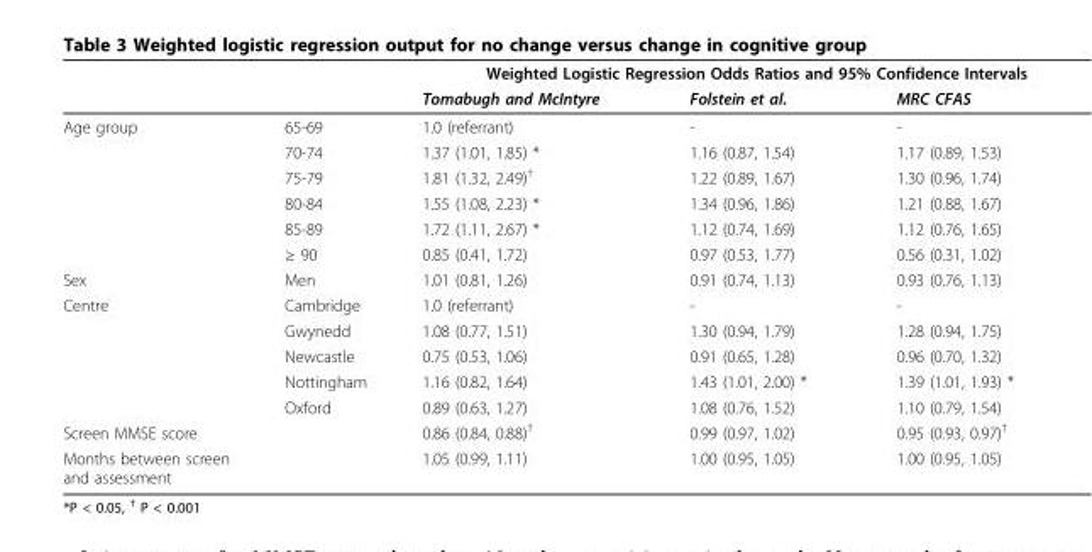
<table><thead><tr><td rowspan="2"></td><td rowspan="2"></td><td colspan="3">Weighted Logistic Regression Odds Ratios and 95% Confidence Intervals</td></tr><tr><td>Tomabugh and McIntyre</td><td>Folstein et al.</td><td>MRC CFAS</td></tr></thead><tbody><tr><td rowspan="6">Age group</td><td>65-69</td><td>1.0 (referrant)</td><td>-</td><td>-</td></tr><tr><td>70-74</td><td>1.37 (1.01, 1.85) *</td><td>1.16 (0.87, 1.54)</td><td>1.17 (0.89, 1.53)</td></tr><tr><td>75-79</td><td>1.81 (1.32, 2.49)<sup>†</sup></td><td>1.22 (0.89, 1.67)</td><td>1.30 (0.96, 1.74)</td></tr><tr><td>80-84</td><td>1.55 (1.08, 2.23) *</td><td>1.34 (0.96, 1.86)</td><td>1.21 (0.88, 1.67)</td></tr><tr><td>85-89</td><td>1.72 (1.11, 2.67) *</td><td>1.12 (0.74, 1.69)</td><td>1.12 (0.76, 1.65)</td></tr><tr><td>≥ 90</td><td>0.85 (0.41, 1.72)</td><td>0.97 (0.53, 1.77)</td><td>0.56 (0.31, 1.02)</td></tr><tr><td>Sex</td><td>Men</td><td>1.01 (0.81, 1.26)</td><td>0.91 (0.74, 1.13)</td><td>0.93 (0.76, 1.13)</td></tr><tr><td rowspan="5">Centre</td><td>Cambridge</td><td>1.0 (referrant)</td><td>-</td><td>-</td></tr><tr><td>Gwynedd</td><td>1.08 (0.77, 1.51)</td><td>1.30 (0.94, 1.79)</td><td>1.28 (0.94, 1.75)</td></tr><tr><td>Newcastle</td><td>0.75 (0.53, 1.06)</td><td>0.91 (0.65, 1.28)</td><td>0.96 (0.70, 1.32)</td></tr><tr><td>Nottingham</td><td>1.16 (0.82, 1.64)</td><td>1.43 (1.01, 2.00) *</td><td>1.39 (1.01, 1.93) *</td></tr><tr><td>Oxford</td><td>0.89 (0.63, 1.27)</td><td>1.08 (0.76, 1.52)</td><td>1.10 (0.79, 1.54)</td></tr><tr><td>Screen MMSE score</td><td></td><td>0.86 (0.84, 0.88)<sup>†</sup></td><td>0.99 (0.97, 1.02)</td><td>0.95 (0.93, 0.97)<sup>†</sup></td></tr><tr><td>Months between screen and assessment</td><td></td><td>1.05 (0.99, 1.11)</td><td>1.00 (0.95, 1.05)</td><td>1.00 (0.95, 1.05)</td></tr></tbody></table>